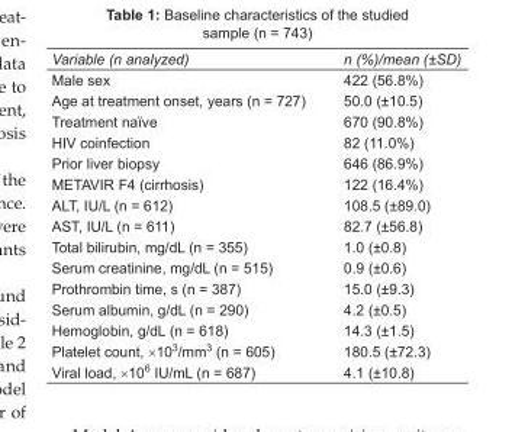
<table><tbody><tr><td>Variable (n analyzed)</td><td>n (%)/mean (±SD)</td></tr><tr><td>Male sex</td><td>422 (56.8%)</td></tr><tr><td>Age at treatment onset, years (n = 727)</td><td>50.0 (±10.5)</td></tr><tr><td>Treatment naïve</td><td>670 (90.8%)</td></tr><tr><td>HIV coinfection</td><td>82 (11.0%)</td></tr><tr><td>Prior liver biopsy</td><td>646 (86.9%)</td></tr><tr><td>METAVIR F4 (cirrhosis)</td><td>122 (16.4%)</td></tr><tr><td>ALT, IU/L (n = 612)</td><td>108.5 (±89.0)</td></tr><tr><td>AST, IU/L (n = 611)</td><td>82.7 (±56.8)</td></tr><tr><td>Total bilirubin, mg/dL (n = 355)</td><td>1.0 (±0.8)</td></tr><tr><td>Serum creatinine, mg/dL (n = 515)</td><td>0.9 (±0.6)</td></tr><tr><td>Prothrombin time, s (n = 387)</td><td>15.0 (±9.3)</td></tr><tr><td>Serum albumin, g/dL (n = 290)</td><td>4.2 (±0.5)</td></tr><tr><td>Hemoglobin, g/dL (n = 618)</td><td>14.3 (±1.5)</td></tr><tr><td>Platelet count, ×10<sup>3</sup>/mm<sup>3</sup> (n = 605)</td><td>180.5 (±72.3)</td></tr><tr><td>Viral load, ×10<sup>6</sup> IU/mL (n = 687)</td><td>4.1 (±10.8)</td></tr></tbody></table>